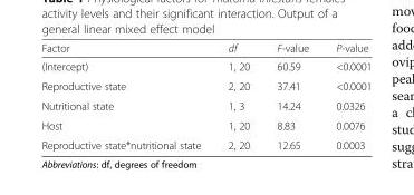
<table><thead><tr><td>Factor</td><td>df</td><td>F-value</td><td>P-value</td></tr></thead><tbody><tr><td>(Intercept)</td><td>1, 20</td><td>60.59</td><td>&lt;0.0001</td></tr><tr><td>Reproductive state</td><td>2, 20</td><td>37.41</td><td>&lt;0.0001</td></tr><tr><td>Nutritional state</td><td>1, 3</td><td>14.24</td><td>0.0326</td></tr><tr><td>Host</td><td>1, 20</td><td>8.83</td><td>0.0076</td></tr><tr><td>Reproductive state*nutritional state</td><td>2, 20</td><td>12.65</td><td>0.0003</td></tr></tbody></table>